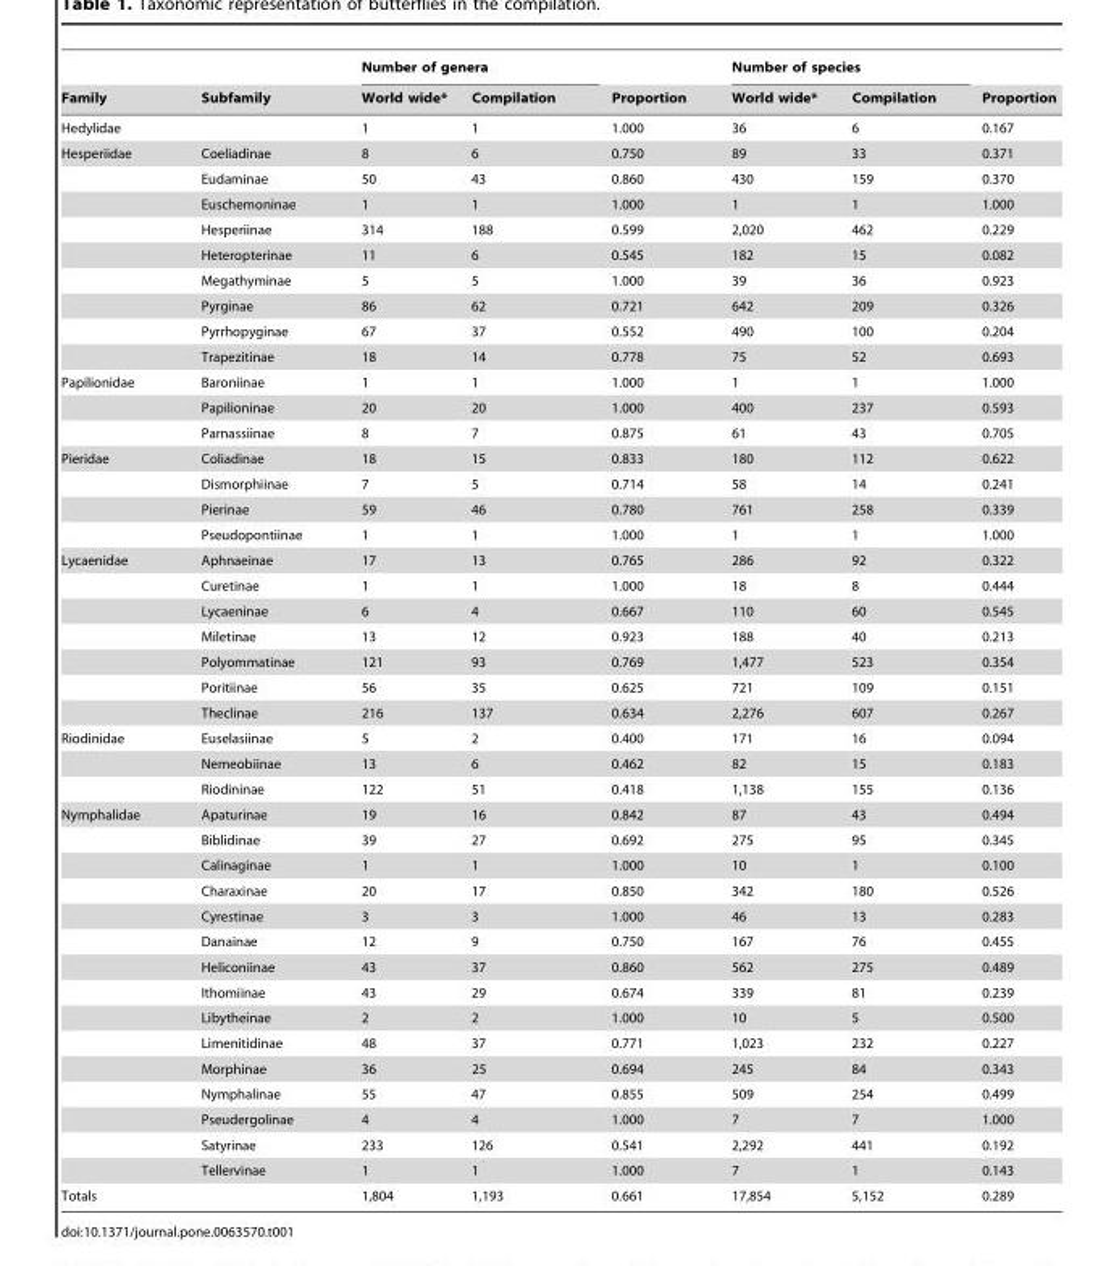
<table><thead><tr><td rowspan="2">Family</td><td rowspan="2">Subfamily</td><td colspan="2">Number of genera</td><td rowspan="2">Proportion</td><td colspan="2">Number of species</td><td rowspan="2">Proportion</td></tr><tr><td>World wide*</td><td>Compilation</td><td>World wide*</td><td>Compilation</td></tr></thead><tbody><tr><td>Hedylidae</td><td></td><td>1</td><td>1</td><td>1.000</td><td>36</td><td>6</td><td>0.167</td></tr><tr><td rowspan="9">Hesperiidae</td><td>Coeliadinae</td><td>8</td><td>6</td><td>0.750</td><td>89</td><td>33</td><td>0.371</td></tr><tr><td>Eudaminae</td><td>50</td><td>43</td><td>0.860</td><td>430</td><td>159</td><td>0.370</td></tr><tr><td>Euschemoninae</td><td>1</td><td>1</td><td>1.000</td><td>1</td><td>1</td><td>1.000</td></tr><tr><td>Hesperiinae</td><td>314</td><td>188</td><td>0.599</td><td>2,020</td><td>462</td><td>0.229</td></tr><tr><td>Heteropterinae</td><td>11</td><td>6</td><td>0.545</td><td>182</td><td>15</td><td>0.082</td></tr><tr><td>Megathyminae</td><td>5</td><td>5</td><td>1.000</td><td>39</td><td>36</td><td>0.923</td></tr><tr><td>Pyrginae</td><td>86</td><td>62</td><td>0.721</td><td>642</td><td>209</td><td>0.326</td></tr><tr><td>Pyrrhopyginae</td><td>67</td><td>37</td><td>0.552</td><td>490</td><td>100</td><td>0.204</td></tr><tr><td>Trapezitinae</td><td>18</td><td>14</td><td>0.778</td><td>75</td><td>52</td><td>0.693</td></tr><tr><td rowspan="3">Papilionidae</td><td>Baroniinae</td><td>1</td><td>1</td><td>1.000</td><td>1</td><td>1</td><td>1.000</td></tr><tr><td>Papilioninae</td><td>20</td><td>20</td><td>1.000</td><td>400</td><td>237</td><td>0.593</td></tr><tr><td>Parnassiinae</td><td>8</td><td>7</td><td>0.875</td><td>61</td><td>43</td><td>0.705</td></tr><tr><td rowspan="4">Pieridae</td><td>Coliadinae</td><td>18</td><td>15</td><td>0.833</td><td>180</td><td>112</td><td>0.622</td></tr><tr><td>Dismorphiinae</td><td>7</td><td>5</td><td>0.714</td><td>58</td><td>14</td><td>0.241</td></tr><tr><td>Pierinae</td><td>59</td><td>46</td><td>0.780</td><td>761</td><td>258</td><td>0.339</td></tr><tr><td>Pseudopontiinae</td><td>1</td><td>1</td><td>1.000</td><td>1</td><td>1</td><td>1.000</td></tr><tr><td rowspan="7">Lycaenidae</td><td>Aphnaeinae</td><td>17</td><td>13</td><td>0.765</td><td>286</td><td>92</td><td>0.322</td></tr><tr><td>Curetinae</td><td>1</td><td>1</td><td>1.000</td><td>18</td><td>8</td><td>0.444</td></tr><tr><td>Lycaeninae</td><td>6</td><td>4</td><td>0.667</td><td>110</td><td>60</td><td>0.545</td></tr><tr><td>Miletinae</td><td>13</td><td>12</td><td>0.923</td><td>188</td><td>40</td><td>0.213</td></tr><tr><td>Polyommatinae</td><td>121</td><td>93</td><td>0.769</td><td>1,477</td><td>523</td><td>0.354</td></tr><tr><td>Poritiinae</td><td>56</td><td>35</td><td>0.625</td><td>721</td><td>109</td><td>0.151</td></tr><tr><td>Theclinae</td><td>216</td><td>137</td><td>0.634</td><td>2,276</td><td>607</td><td>0.267</td></tr><tr><td rowspan="3">Riodinidae</td><td>Euselasiinae</td><td>5</td><td>2</td><td>0.400</td><td>171</td><td>16</td><td>0.094</td></tr><tr><td>Nemeobiinae</td><td>13</td><td>6</td><td>0.462</td><td>82</td><td>15</td><td>0.183</td></tr><tr><td>Riodininae</td><td>122</td><td>51</td><td>0.418</td><td>1,138</td><td>155</td><td>0.136</td></tr><tr><td rowspan="15">Nymphalidae</td><td>Apaturinae</td><td>19</td><td>16</td><td>0.842</td><td>87</td><td>43</td><td>0.494</td></tr><tr><td>Biblidinae</td><td>39</td><td>27</td><td>0.692</td><td>275</td><td>95</td><td>0.345</td></tr><tr><td>Calinaginae</td><td>1</td><td>1</td><td>1.000</td><td>10</td><td>1</td><td>0.100</td></tr><tr><td>Charaxinae</td><td>20</td><td>17</td><td>0.850</td><td>342</td><td>180</td><td>0.526</td></tr><tr><td>Cyrestinae</td><td>3</td><td>3</td><td>1.000</td><td>46</td><td>13</td><td>0.283</td></tr><tr><td>Danainae</td><td>12</td><td>9</td><td>0.750</td><td>167</td><td>76</td><td>0.455</td></tr><tr><td>Heliconiinae</td><td>43</td><td>37</td><td>0.860</td><td>562</td><td>275</td><td>0.489</td></tr><tr><td>Ithomiinae</td><td>43</td><td>29</td><td>0.674</td><td>339</td><td>81</td><td>0.239</td></tr><tr><td>Libytheinae</td><td>2</td><td>2</td><td>1.000</td><td>10</td><td>5</td><td>0.500</td></tr><tr><td>Limenitidinae</td><td>48</td><td>37</td><td>0.771</td><td>1,023</td><td>232</td><td>0.227</td></tr><tr><td>Morphinae</td><td>36</td><td>25</td><td>0.694</td><td>245</td><td>84</td><td>0.343</td></tr><tr><td>Nymphalinae</td><td>55</td><td>47</td><td>0.855</td><td>509</td><td>254</td><td>0.499</td></tr><tr><td>Pseudergolinae</td><td>4</td><td>4</td><td>1.000</td><td>7</td><td>7</td><td>1.000</td></tr><tr><td>Satyrinae</td><td>233</td><td>126</td><td>0.541</td><td>2,292</td><td>441</td><td>0.192</td></tr><tr><td>Tellervinae</td><td>1</td><td>1</td><td>1.000</td><td>7</td><td>1</td><td>0.143</td></tr><tr><td>Totals</td><td></td><td>1,804</td><td>1,193</td><td>0.661</td><td>17,854</td><td>5,152</td><td>0.289</td></tr></tbody></table>